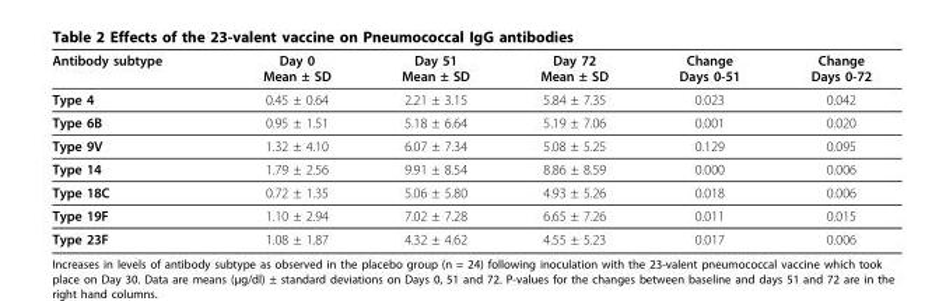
<table><thead><tr><td>Antibody subtype</td><td>Day 0 Mean ± SD</td><td>Day 51 Mean ± SD</td><td>Day 72 Mean ± SD</td><td>Change Days 0-51</td><td>Change Days 0-72</td></tr></thead><tbody><tr><td>Type 4</td><td>0.45 ± 0.64</td><td>2.21 ± 3.15</td><td>5.84 ± 7.35</td><td>0.023</td><td>0.042</td></tr><tr><td>Type 6B</td><td>0.95 ± 1.51</td><td>5.18 ± 6.64</td><td>5.19 ± 7.06</td><td>0.001</td><td>0.020</td></tr><tr><td>Type 9V</td><td>1.32 ± 4.10</td><td>6.07 ± 7.34</td><td>5.08 ± 5.25</td><td>0.129</td><td>0.095</td></tr><tr><td>Type 14</td><td>1.79 ± 2.56</td><td>9.91 ± 8.54</td><td>8.86 ± 8.59</td><td>0.000</td><td>0.006</td></tr><tr><td>Type 18C</td><td>0.72 ± 1.35</td><td>5.06 ± 5.80</td><td>4.93 ± 5.26</td><td>0.018</td><td>0.006</td></tr><tr><td>Type 19F</td><td>1.10 ± 2.94</td><td>7.02 ± 7.28</td><td>6.65 ± 7.26</td><td>0.011</td><td>0.015</td></tr><tr><td>Type 23F</td><td>1.08 ± 1.87</td><td>4.32 ± 4.62</td><td>4.55 ± 5.23</td><td>0.017</td><td>0.006</td></tr></tbody></table>